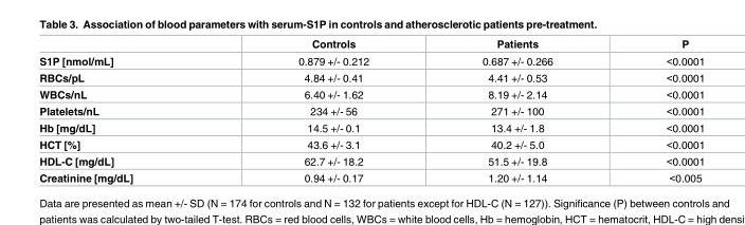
<table><thead><tr><td></td><td>Controls</td><td>Patients</td><td>P</td></tr></thead><tbody><tr><td>S1P [nmol/mL]</td><td>0.879 +/- 0.212</td><td>0.687 +/- 0.266</td><td>&lt;0.0001</td></tr><tr><td>RBCs/pL</td><td>4.84 +/- 0.41</td><td>4.41 +/- 0.53</td><td>&lt;0.0001</td></tr><tr><td>WBCs/nL</td><td>6.40 +/- 1.62</td><td>8.19 +/- 2.14</td><td>&lt;0.0001</td></tr><tr><td>Platelets/nL</td><td>234 +/- 56</td><td>271 +/- 100</td><td>&lt;0.0001</td></tr><tr><td>Hb [mg/dL]</td><td>14.5 +/- 0.1</td><td>13.4 +/- 1.8</td><td>&lt;0.0001</td></tr><tr><td>HCT [%]</td><td>43.6 +/- 3.1</td><td>40.2 +/- 5.0</td><td>&lt;0.0001</td></tr><tr><td>HDL-C [mg/dL]</td><td>62.7 +/- 18.2</td><td>51.5 +/- 19.8</td><td>&lt;0.0001</td></tr><tr><td>Creatinine [mg/dL]</td><td>0.94 +/- 0.17</td><td>1.20 +/- 1.14</td><td>&lt;0.005</td></tr></tbody></table>